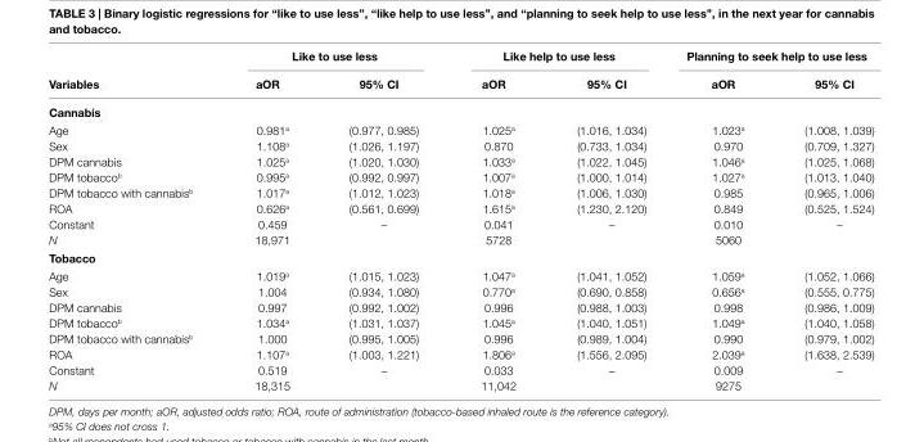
<table><thead><tr><td rowspan="2">Variables</td><td colspan="2">like to use less</td><td colspan="2">like help to use less</td><td colspan="2">Planning to seek help to use less</td></tr><tr><td>aOr</td><td>95% ci</td><td>aOr</td><td>95% ci</td><td>aOr</td><td>95% ci</td></tr></thead><tbody><tr><td colspan="7">cannabis</td></tr><tr><td>Age</td><td>0.981<sup>a</sup></td><td>(0.977, 0.985)</td><td>1.025<sup>a</sup></td><td>(1.016, 1.034)</td><td>1.023<sup>a</sup></td><td>(1.008, 1.039)</td></tr><tr><td>Sex</td><td>1.108<sup>a</sup></td><td>(1.026, 1.197)</td><td>0.870</td><td>(0.733, 1.034)</td><td>0.970</td><td>(0.709, 1.327)</td></tr><tr><td>DPM cannabis</td><td>1.025<sup>a</sup></td><td>(1.020, 1.030)</td><td>1.033<sup>a</sup></td><td>(1.022, 1.045)</td><td>1.046<sup>a</sup></td><td>(1.025, 1.068)</td></tr><tr><td>DPM tobacco<sup>b</sup></td><td>0.995<sup>a</sup></td><td>(0.992, 0.997)</td><td>1.007<sup>a</sup></td><td>(1.000, 1.014)</td><td>1.027<sup>a</sup></td><td>(1.013, 1.040)</td></tr><tr><td>DPM tobacco with cannabis<sup>b</sup></td><td>1.017<sup>a</sup></td><td>(1.012, 1.023)</td><td>1.018<sup>a</sup></td><td>(1.006, 1.030)</td><td>0.985</td><td>(0.965, 1.006)</td></tr><tr><td>ROA</td><td>0.626<sup>a</sup></td><td>(0.561, 0.699)</td><td>1.615<sup>a</sup></td><td>(1.230, 2.120)</td><td>0.849</td><td>(0.525, 1.524)</td></tr><tr><td>Constant</td><td>0.459</td><td>–</td><td>0.041</td><td>–</td><td>0.010</td><td>–</td></tr><tr><td>N</td><td>18,971</td><td></td><td>5728</td><td></td><td>5060</td><td></td></tr><tr><td colspan="7">Tobacco</td></tr><tr><td>Age</td><td>1.019<sup>a</sup></td><td>(1.015, 1.023)</td><td>1.047<sup>a</sup></td><td>(1.041, 1.052)</td><td>1.059<sup>a</sup></td><td>(1.052, 1.066)</td></tr><tr><td>Sex</td><td>1.004</td><td>(0.934, 1.080)</td><td>0.770<sup>a</sup></td><td>(0.690, 0.858)</td><td>0.656<sup>a</sup></td><td>(0.555, 0.775)</td></tr><tr><td>DPM cannabis</td><td>0.997</td><td>(0.992, 1.002)</td><td>0.996</td><td>(0.988, 1.003)</td><td>0.998</td><td>(0.986, 1.009)</td></tr><tr><td>DPM tobacco<sup>b</sup></td><td>1.034<sup>a</sup></td><td>(1.031, 1.037)</td><td>1.045<sup>a</sup></td><td>(1.040, 1.051)</td><td>1.049<sup>a</sup></td><td>(1.040, 1.058)</td></tr><tr><td>DPM tobacco with cannabis<sup>b</sup></td><td>1.000</td><td>(0.995, 1.005)</td><td>0.996</td><td>(0.989, 1.004)</td><td>0.990</td><td>(0.979, 1.002)</td></tr><tr><td>ROA</td><td>1.107<sup>a</sup></td><td>(1.003, 1.221)</td><td>1.806<sup>a</sup></td><td>(1.556, 2.095)</td><td>2.039<sup>a</sup></td><td>(1.638, 2.539)</td></tr><tr><td>Constant</td><td>0.519</td><td>–</td><td>0.033</td><td>–</td><td>0.009</td><td>–</td></tr><tr><td>N</td><td>18,315</td><td></td><td>11,042</td><td></td><td>9275</td><td></td></tr></tbody></table>